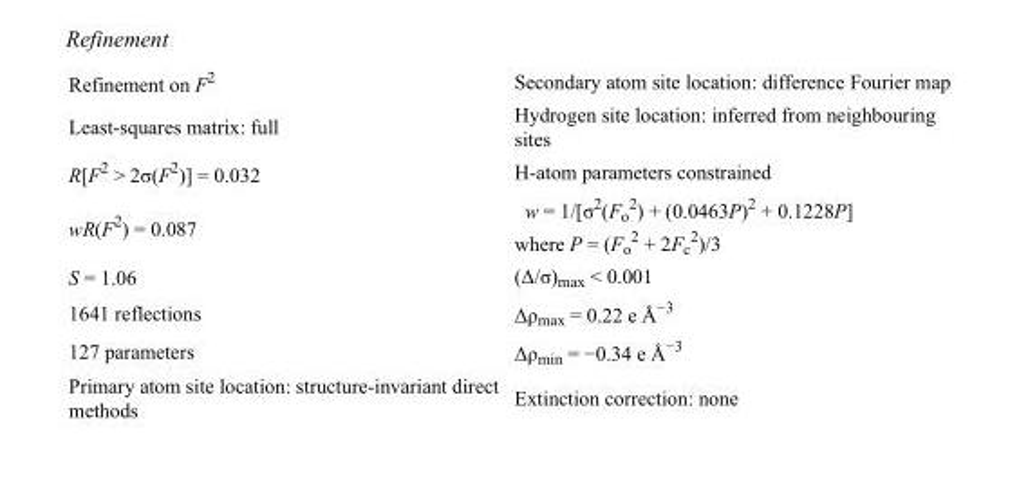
<table><tbody><tr><td>Refinement on F<sup>2</sup></td><td>Secondary atom site location: difference Fourier map</td></tr><tr><td>Least-squares matrix: full</td><td>Hydrogen site location: inferred from neighbouring sites</td></tr><tr><td>R[F<sup>2</sup> &gt; 2σ(F<sup>2</sup>)] = 0.032</td><td>H-atom parameters constrained</td></tr><tr><td>wR(F<sup>2</sup>) = 0.087</td><td>w = 1/[σ<sup>2</sup>(F<sub>o</sub> <sup>2</sup>) + (0.0463P)<sup>2</sup> + 0.1228P] where P = (F<sub>o</sub> <sup>2</sup> + 2F<sub>c</sub> <sup>2</sup>)/3</td></tr><tr><td>S = 1.06</td><td>(Δ/σ)<sub>max</sub> &lt; 0.001</td></tr><tr><td>1641 reflections</td><td>Δρ<sub>max</sub> = 0.22 e Å<sup>−3</sup></td></tr><tr><td>127 parameters</td><td>Δρ<sub>min</sub> = −0.34 e Å<sup>−3</sup></td></tr><tr><td>Primary atom site location: structure-invariant direct methods</td><td>Extinction correction: none</td></tr></tbody></table>